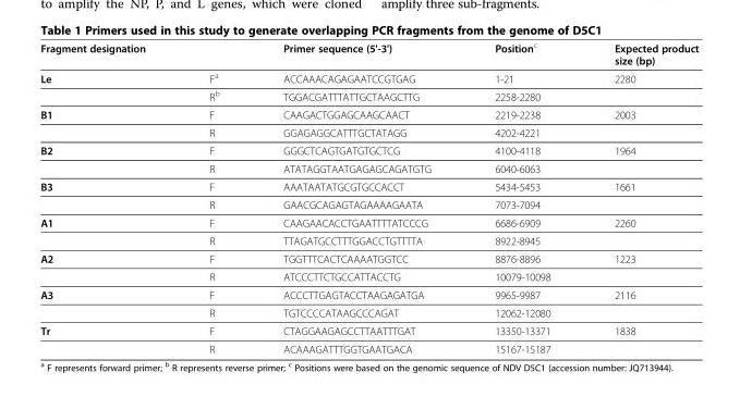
<table><thead><tr><td>Fragment designation</td><td></td><td>Primer sequence (5&#x27;-3&#x27;)</td><td>Position<sup>c</sup></td><td>Expected product size (bp)</td></tr></thead><tbody><tr><td rowspan="2">Le</td><td>F<sup>a</sup></td><td>ACCAAACAGAGAATCCGTGAG</td><td>1-21</td><td>2280</td></tr><tr><td>R<sup>b</sup></td><td>TGGACGATTTATTGCTAAGCTTG</td><td>2258-2280</td><td></td></tr><tr><td rowspan="2">B1</td><td>F</td><td>CAAGACTGGAGCAAGCAACT</td><td>2219-2238</td><td>2003</td></tr><tr><td>R</td><td>GGAGAGGCATTTGCTATAGG</td><td>4202-4221</td><td></td></tr><tr><td rowspan="2">B2</td><td>F</td><td>GGGCTCAGTGATGTGCTCG</td><td>4100-4118</td><td>1964</td></tr><tr><td>R</td><td>ATATAGGTAATGAGAGCAGATGTG</td><td>6040-6063</td><td></td></tr><tr><td rowspan="2">B3</td><td>F</td><td>AAATAATATGCGTGCCACCT</td><td>5434-5453</td><td>1661</td></tr><tr><td>R</td><td>GAACGCAGAGTAGAAAAGAATA</td><td>7073-7094</td><td></td></tr><tr><td rowspan="2">A1</td><td>F</td><td>CAAGAACACCTGAATTTTATCCCG</td><td>6686-6909</td><td>2260</td></tr><tr><td>R</td><td>TTAGATGCCTTTGGACCTGTTTTA</td><td>8922-8945</td><td></td></tr><tr><td rowspan="2">A2</td><td>F</td><td>TGGTTTCACTCAAAATGGTCC</td><td>8876-8896</td><td>1223</td></tr><tr><td>R</td><td>ATCCCTTCTGCCATTACCTG</td><td>10079-10098</td><td></td></tr><tr><td rowspan="2">A3</td><td>F</td><td>ACCCTTGAGTACCTAAGAGATGA</td><td>9965-9987</td><td>2116</td></tr><tr><td>R</td><td>TGTCCCCATAAGCCCAGAT</td><td>12062-12080</td><td></td></tr><tr><td rowspan="2">Tr</td><td>F</td><td>CTAGGAAGAGCCTTAATTTGAT</td><td>13350-13371</td><td>1838</td></tr><tr><td>R</td><td>ACAAAGATTTGGTGAATGACA</td><td>15167-15187</td><td></td></tr></tbody></table>